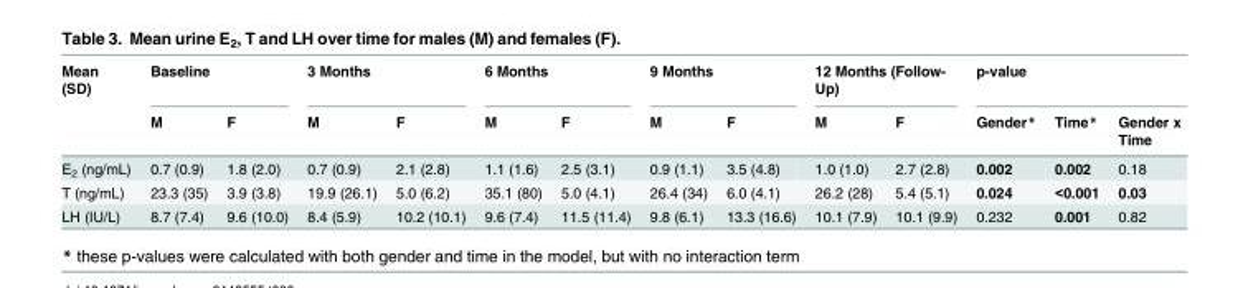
<table><thead><tr><td rowspan="2">Mean (SD)</td><td colspan="2">Baseline</td><td colspan="2">3 Months</td><td colspan="2">6 Months</td><td colspan="2">9 Months</td><td colspan="2">12 Months (Follow- Up)</td><td colspan="3">p-value</td></tr><tr><td>M</td><td>F</td><td>M</td><td>F</td><td>M</td><td>F</td><td>M</td><td>F</td><td>M</td><td>F</td><td>Gender*</td><td>Time*</td><td>Gender x Time</td></tr></thead><tbody><tr><td>E<sub>2</sub> (ng/mL)</td><td>0.7 (0.9)</td><td>1.8 (2.0)</td><td>0.7 (0.9)</td><td>2.1 (2.8)</td><td>1.1 (1.6)</td><td>2.5 (3.1)</td><td>0.9 (1.1)</td><td>3.5 (4.8)</td><td>1.0 (1.0)</td><td>2.7 (2.8)</td><td>0.002</td><td>0.002</td><td>0.18</td></tr><tr><td>T (ng/mL)</td><td>23.3 (35)</td><td>3.9 (3.8)</td><td>19.9 (26.1)</td><td>5.0 (6.2)</td><td>35.1 (80)</td><td>5.0 (4.1)</td><td>26.4 (34)</td><td>6.0 (4.1)</td><td>26.2 (28)</td><td>5.4 (5.1)</td><td>0.024</td><td>&lt;0.001</td><td>0.03</td></tr><tr><td>LH (IU/L)</td><td>8.7 (7.4)</td><td>9.6 (10.0)</td><td>8.4 (5.9)</td><td>10.2 (10.1)</td><td>9.6 (7.4)</td><td>11.5 (11.4)</td><td>9.8 (6.1)</td><td>13.3 (16.6)</td><td>10.1 (7.9)</td><td>10.1 (9.9)</td><td>0.232</td><td>0.001</td><td>0.82</td></tr></tbody></table>